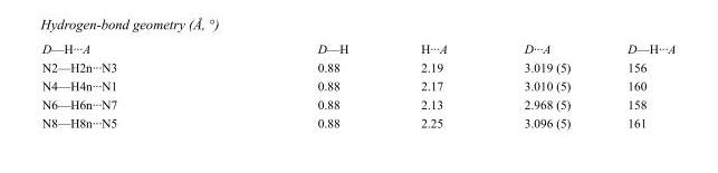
<table><tbody><tr><td>D—H···A</td><td>D—H</td><td>H···A</td><td>D···A</td><td>D—H···A</td></tr><tr><td>N2—H2n···N3</td><td>0.88</td><td>2.19</td><td>3.019 (5)</td><td>156</td></tr><tr><td>N4—H4n···N1</td><td>0.88</td><td>2.17</td><td>3.010 (5)</td><td>160</td></tr><tr><td>N6—H6n···N7</td><td>0.88</td><td>2.13</td><td>2.968 (5)</td><td>158</td></tr><tr><td>N8—H8n···N5</td><td>0.88</td><td>2.25</td><td>3.096 (5)</td><td>161</td></tr></tbody></table>